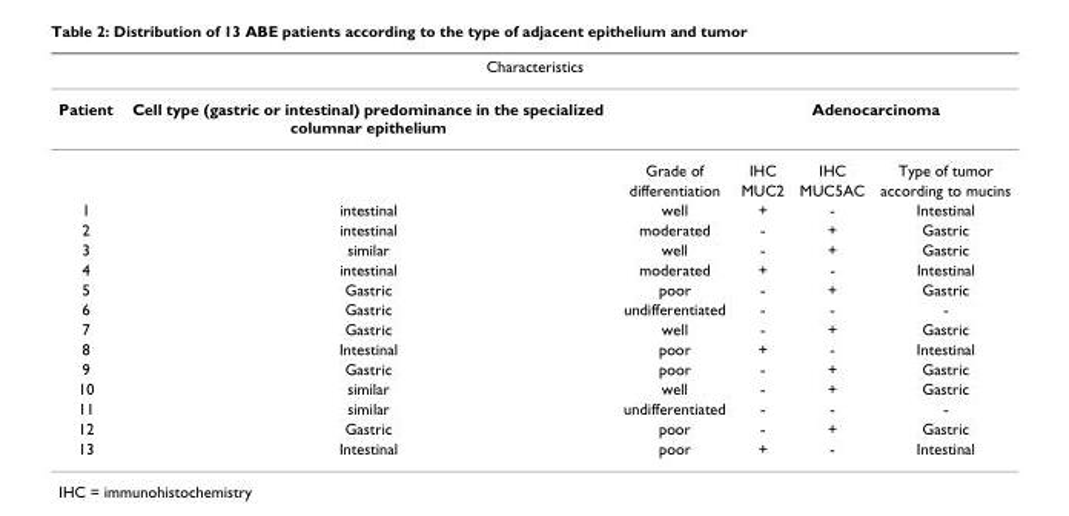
<table><thead><tr><td colspan="6">Characteristics</td></tr><tr><td rowspan="2">Patient</td><td rowspan="2">Cell type (gastric or intestinal) predominance in the specialized columnar epithelium</td><td rowspan="2">Grade of</td><td colspan="3">Adenocarcinoma</td></tr><tr><td>IHC</td><td>IHC</td><td>Type of tumor</td></tr></thead><tbody><tr><td></td><td></td><td>differentiation</td><td>MUC2</td><td>MUC5AC</td><td>according to mucins</td></tr><tr><td>1</td><td>intestinal</td><td>well</td><td>+</td><td>-</td><td>Intestinal</td></tr><tr><td>2</td><td>intestinal</td><td>moderated</td><td>-</td><td>+</td><td>Gastric</td></tr><tr><td>3</td><td>similar</td><td>well</td><td>-</td><td>+</td><td>Gastric</td></tr><tr><td>4</td><td>intestinal</td><td>moderated</td><td>+</td><td>-</td><td>Intestinal</td></tr><tr><td>5</td><td>Gastric</td><td>poor</td><td>-</td><td>+</td><td>Gastric</td></tr><tr><td>6</td><td>Gastric</td><td>undifferentiated</td><td>-</td><td>-</td><td>-</td></tr><tr><td>7</td><td>Gastric</td><td>well</td><td>-</td><td>+</td><td>Gastric</td></tr><tr><td>8</td><td>Intestinal</td><td>poor</td><td>+</td><td>-</td><td>Intestinal</td></tr><tr><td>9</td><td>Gastric</td><td>poor</td><td>-</td><td>+</td><td>Gastric</td></tr><tr><td>10</td><td>similar</td><td>well</td><td>-</td><td>+</td><td>Gastric</td></tr><tr><td>11</td><td>similar</td><td>undifferentiated</td><td>-</td><td>-</td><td>-</td></tr><tr><td>12</td><td>Gastric</td><td>poor</td><td>-</td><td>+</td><td>Gastric</td></tr><tr><td>13</td><td>Intestinal</td><td>poor</td><td>+</td><td>-</td><td>Intestinal</td></tr></tbody></table>